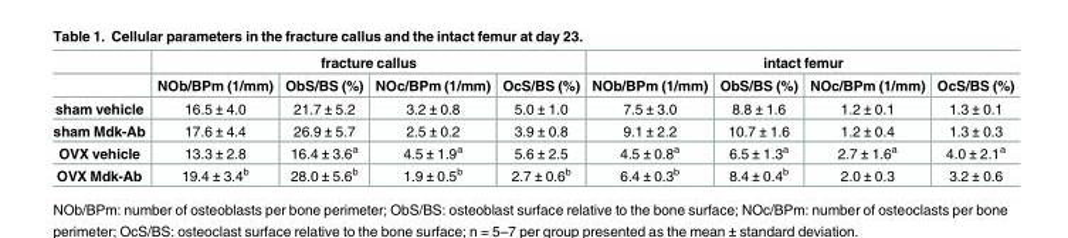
<table><thead><tr><td rowspan="2"></td><td colspan="4">fracture callus</td><td colspan="4">intact femur</td></tr><tr><td>NOb/BPm (1/mm)</td><td>ObS/BS (%)</td><td>NOc/BPm (1/mm)</td><td>OcS/BS (%)</td><td>NOb/BPm (1/mm)</td><td>ObS/BS (%)</td><td>NOc/BPm (1/mm)</td><td>OcS/BS (%)</td></tr></thead><tbody><tr><td>sham vehicle</td><td>16.5 ± 4.0</td><td>21.7 ± 5.2</td><td>3.2 ± 0.8</td><td>5.0 ± 1.0</td><td>7.5 ± 3.0</td><td>8.8 ± 1.6</td><td>1.2 ± 0.1</td><td>1.3 ± 0.1</td></tr><tr><td>sham Mdk-Ab</td><td>17.6 ± 4.4</td><td>26.9 ± 5.7</td><td>2.5 ± 0.2</td><td>3.9 ± 0.8</td><td>9.1 ± 2.2</td><td>10.7 ± 1.6</td><td>1.2 ± 0.4</td><td>1.3 ± 0.3</td></tr><tr><td>OVX vehicle</td><td>13.3 ± 2.8</td><td>16.4 ± 3.6<sup>a</sup></td><td>4.5 ± 1.9<sup>a</sup></td><td>5.6 ± 2.5</td><td>4.5 ± 0.8<sup>a</sup></td><td>6.5 ± 1.3<sup>a</sup></td><td>2.7 ± 1.6<sup>a</sup></td><td>4.0 ± 2.1<sup>a</sup></td></tr><tr><td>OVX Mdk-Ab</td><td>19.4 ± 3.4<sup>b</sup></td><td>28.0 ± 5.6<sup>b</sup></td><td>1.9 ± 0.5<sup>b</sup></td><td>2.7 ± 0.6<sup>b</sup></td><td>6.4 ± 0.3<sup>b</sup></td><td>8.4 ± 0.4<sup>b</sup></td><td>2.0 ± 0.3</td><td>3.2 ± 0.6</td></tr></tbody></table>